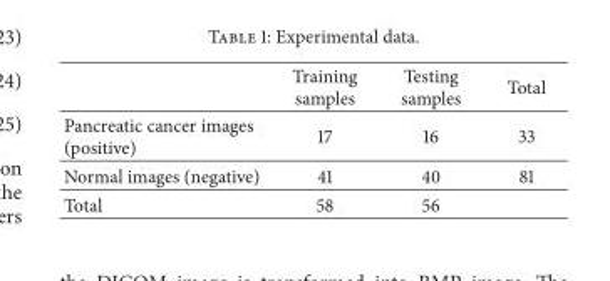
<table><thead><tr><td></td><td>Training samples</td><td>Testing samples</td><td>Total</td></tr></thead><tbody><tr><td>Pancreatic cancer images (positive)</td><td>17</td><td>16</td><td>33</td></tr><tr><td>Normal images (negative)</td><td>41</td><td>40</td><td>81</td></tr><tr><td>Total</td><td>58</td><td>56</td><td></td></tr></tbody></table>